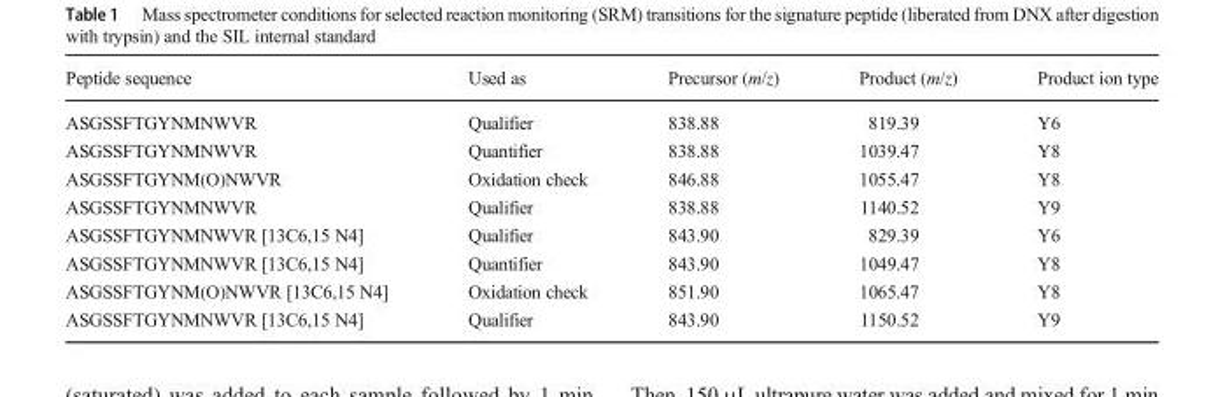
<table><thead><tr><td>Peptide sequence</td><td>Used as</td><td>Precursor (m/z)</td><td>Product (m/z)</td><td>Product ion type</td></tr></thead><tbody><tr><td>ASGSSFTGYNMNWVR</td><td>Qualifier</td><td>838.88</td><td>819.39</td><td>Y6</td></tr><tr><td>ASGSSFTGYNMNWVR</td><td>Quantifier</td><td>838.88</td><td>1039.47</td><td>Y8</td></tr><tr><td>ASGSSFTGYNM(O)NWVR</td><td>Oxidation check</td><td>846.88</td><td>1055.47</td><td>Y8</td></tr><tr><td>ASGSSFTGYNMNWVR</td><td>Qualifier</td><td>838.88</td><td>1140.52</td><td>Y9</td></tr><tr><td>ASGSSFTGYNMNWVR [13C6,15 N4]</td><td>Qualifier</td><td>843.90</td><td>829.39</td><td>Y6</td></tr><tr><td>ASGSSFTGYNMNWVR [13C6,15 N4]</td><td>Quantifier</td><td>843.90</td><td>1049.47</td><td>Y8</td></tr><tr><td>ASGSSFTGYNM(O)NWVR [13C6,15 N4]</td><td>Oxidation check</td><td>851.90</td><td>1065.47</td><td>Y8</td></tr><tr><td>ASGSSFTGYNMNWVR [13C6,15 N4]</td><td>Qualifier</td><td>843.90</td><td>1150.52</td><td>Y9</td></tr></tbody></table>